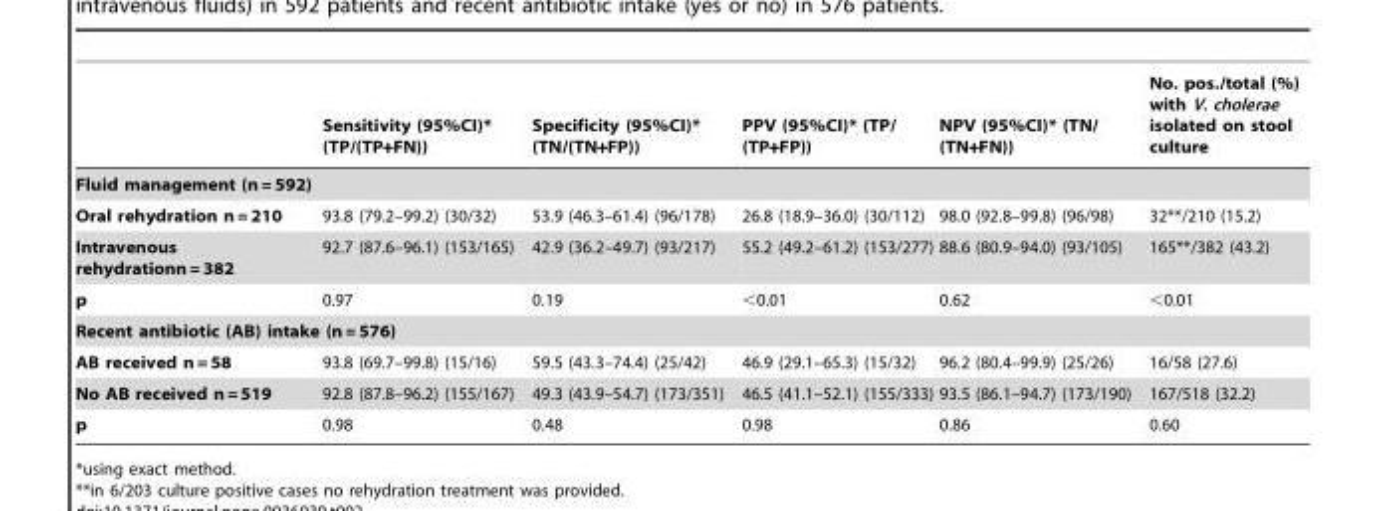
<table><thead><tr><td></td><td>Sensitivity (95%CI)* (TP/(TP+FN))</td><td>Specificity (95%CI)* (TN/(TN+FP))</td><td>PPV (95%CI)* (TP/ (TP+FP))</td><td>NPV (95%CI)* (TN/ (TN+FN))</td><td>No. pos./total (%) with V. cholerae isolated on stool culture</td></tr></thead><tbody><tr><td colspan="6">Fluid management (n = 592)</td></tr><tr><td>Oral rehydration n = 210</td><td>93.8 (79.2–99.2) (30/32)</td><td>53.9 (46.3–61.4) (96/178)</td><td>26.8 (18.9–36.0) (30/112)</td><td>98.0 (92.8–99.8) (96/98)</td><td>32**/210 (15.2)</td></tr><tr><td>Intravenous rehydrationn = 382</td><td>92.7 (87.6–96.1) (153/165)</td><td>42.9 (36.2–49.7) (93/217)</td><td>55.2 (49.2–61.2) (153/277)</td><td>88.6 (80.9–94.0) (93/105)</td><td>165**/382 (43.2)</td></tr><tr><td>p</td><td>0.97</td><td>0.19</td><td>&lt;0.01</td><td>0.62</td><td>&lt;0.01</td></tr><tr><td colspan="6">Recent antibiotic (AB) intake (n = 576)</td></tr><tr><td>AB received n = 58</td><td>93.8 (69.7–99.8) (15/16)</td><td>59.5 (43.3–74.4) (25/42)</td><td>46.9 (29.1–65.3) (15/32)</td><td>96.2 (80.4–99.9) (25/26)</td><td>16/58 (27.6)</td></tr><tr><td>No AB received n = 519</td><td>92.8 (87.8–96.2) (155/167)</td><td>49.3 (43.9–54.7) (173/351)</td><td>46.5 (41.1–52.1) (155/333)</td><td>93.5 (86.1–94.7) (173/190)</td><td>167/518 (32.2)</td></tr><tr><td>p</td><td>0.98</td><td>0.48</td><td>0.98</td><td>0.86</td><td>0.60</td></tr></tbody></table>